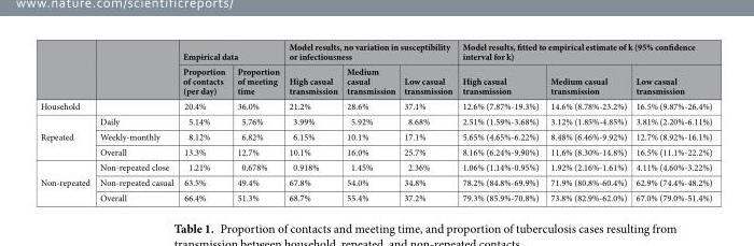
<table><thead><tr><td rowspan="2"></td><td rowspan="2"></td><td colspan="2">Empirical data</td><td colspan="3">Model results, no variation in susceptibility or infectiousness</td><td colspan="3">Model results, fitted to empirical estimate of k (95% confidence interval for k)</td></tr><tr><td>Proportion of contacts (per day)</td><td>Proportion of meeting time</td><td>High casual transmission</td><td>Medium casual transmission</td><td>Low casual transmission</td><td>High casual transmission</td><td>Medium casual transmission</td><td>Low casual transmission</td></tr></thead><tbody><tr><td>Household</td><td></td><td>20.4%</td><td>36.0%</td><td>21.2%</td><td>28.6%</td><td>37.1%</td><td>12.6% (7.87%-19.3%)</td><td>14.6% (8.78%-23.2%)</td><td>16.5% (9.87%-26.4%)</td></tr><tr><td rowspan="3">Repeated</td><td>Daily</td><td>5.14%</td><td>5.76%</td><td>3.99%</td><td>5.92%</td><td>8.68%</td><td>2.51% (1.59%-3.68%)</td><td>3.12% (1.85%-4.85%)</td><td>3.81% (2.20%-6.11%)</td></tr><tr><td>Weekly-monthly</td><td>8.12%</td><td>6.82%</td><td>6.15%</td><td>10.1%</td><td>17.1%</td><td>5.65% (4.65%-6.22%)</td><td>8.48% (6.46%-9.92%)</td><td>12.7% (8.92%-16.1%)</td></tr><tr><td>Overall</td><td>13.3%</td><td>12.7%</td><td>10.1%</td><td>16.0%</td><td>25.7%</td><td>8.16% (6.24%-9.90%)</td><td>11.6% (8.30%-14.8%)</td><td>16.5% (11.1%-22.2%)</td></tr><tr><td rowspan="3">Non-repeated</td><td>Non-repeated close</td><td>1.21%</td><td>0.678%</td><td>0.918%</td><td>1.45%</td><td>2.36%</td><td>1.06% (1.14%-0.95%)</td><td>1.92% (2.16%-1.61%)</td><td>4.11% (4.60%-3.22%)</td></tr><tr><td>Non-repeated casual</td><td>63.5%</td><td>49.4%</td><td>67.8%</td><td>54.0%</td><td>34.8%</td><td>78.2% (84.8%-69.9%)</td><td>71.9% (80.8%-60.4%)</td><td>62.9% (74.4%-48.2%)</td></tr><tr><td>Overall</td><td>66.4%</td><td>51.3%</td><td>68.7%</td><td>55.4%</td><td>37.2%</td><td>79.3% (85.9%-70.8%)</td><td>73.8% (82.9%-62.0%)</td><td>67.0% (79.0%-51.4%)</td></tr></tbody></table>